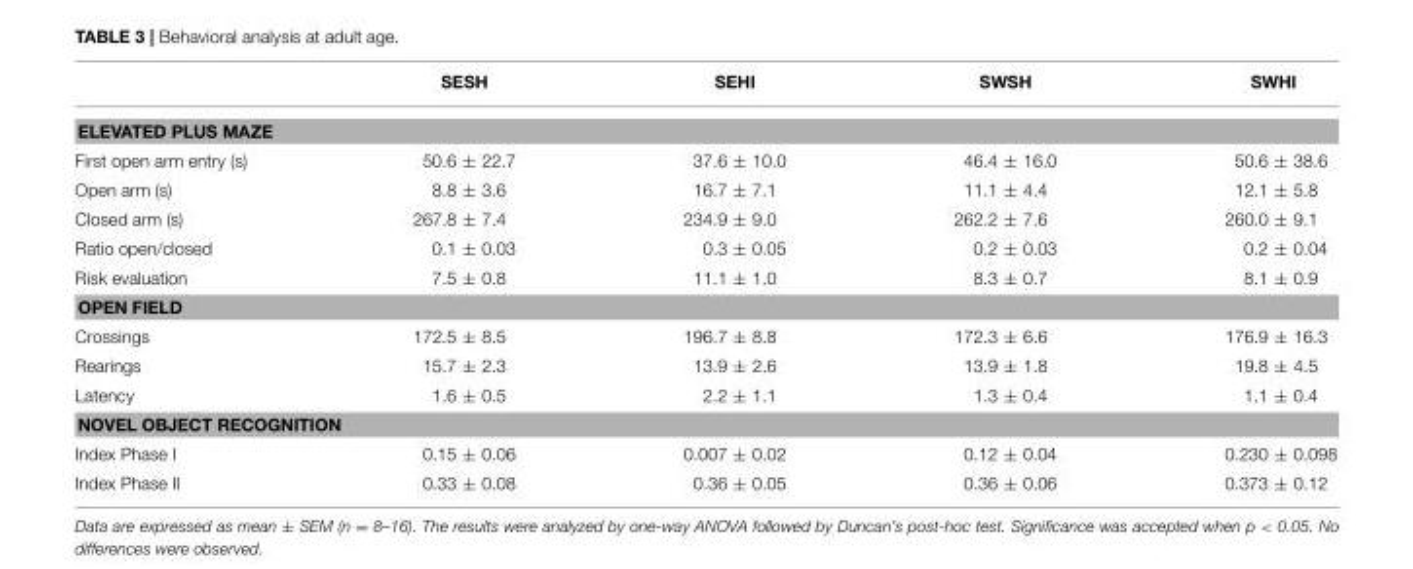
<table><thead><tr><td></td><td>SESH</td><td>SEHI</td><td>SWSH</td><td>SWHI</td></tr></thead><tbody><tr><td colspan="5">ELEVATED PLUS MAZE</td></tr><tr><td>First open arm entry (s)</td><td>50.6 ± 22.7</td><td>37.6 ± 10.0</td><td>46.4 ± 16.0</td><td>50.6 ± 38.6</td></tr><tr><td>Open arm (s)</td><td>8.8 ± 3.6</td><td>16.7 ± 7.1</td><td>11.1 ± 4.4</td><td>12.1 ± 5.8</td></tr><tr><td>Closed arm (s)</td><td>267.8 ± 7.4</td><td>234.9 ± 9.0</td><td>262.2 ± 7.6</td><td>260.0 ± 9.1</td></tr><tr><td>Ratio open/closed</td><td>0.1 ± 0.03</td><td>0.3 ± 0.05</td><td>0.2 ± 0.03</td><td>0.2 ± 0.04</td></tr><tr><td>Risk evaluation</td><td>7.5 ± 0.8</td><td>11.1 ± 1.0</td><td>8.3 ± 0.7</td><td>8.1 ± 0.9</td></tr><tr><td colspan="5">OPEN FIELD</td></tr><tr><td>Crossings</td><td>172.5 ± 8.5</td><td>196.7 ± 8.8</td><td>172.3 ± 6.6</td><td>176.9 ± 16.3</td></tr><tr><td>Rearings</td><td>15.7 ± 2.3</td><td>13.9 ± 2.6</td><td>13.9 ± 1.8</td><td>19.8 ± 4.5</td></tr><tr><td>Latency</td><td>1.6 ± 0.5</td><td>2.2 ± 1.1</td><td>1.3 ± 0.4</td><td>1.1 ± 0.4</td></tr><tr><td colspan="5">NOVEL OBJECT RECOGNITION</td></tr><tr><td>Index Phase I</td><td>0.15 ± 0.06</td><td>0.007 ± 0.02</td><td>0.12 ± 0.04</td><td>0.230 ± 0.098</td></tr><tr><td>Index Phase II</td><td>0.33 ± 0.08</td><td>0.36 ± 0.05</td><td>0.36 ± 0.06</td><td>0.373 ± 0.12</td></tr></tbody></table>